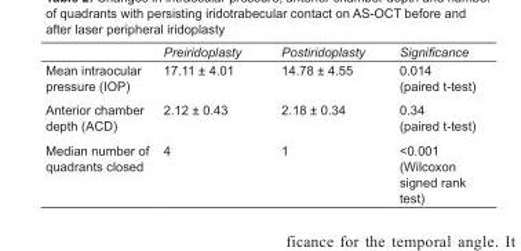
<table><thead><tr><td></td><td>Preiridoplasty</td><td>Postiridoplasty</td><td>Significance</td></tr></thead><tbody><tr><td>Mean intraocular pressure (IOP)</td><td>17.11 ± 4.01</td><td>14.78 ± 4.55</td><td>0.014 (paired t-test)</td></tr><tr><td>Anterior chamber depth (ACD)</td><td>2.12 ± 0.43</td><td>2.18 ± 0.34</td><td>0.34 (paired t-test)</td></tr><tr><td>Median number of quadrants closed</td><td>4</td><td>1</td><td>&lt;0.001 (Wilcoxon signed rank test)</td></tr></tbody></table>